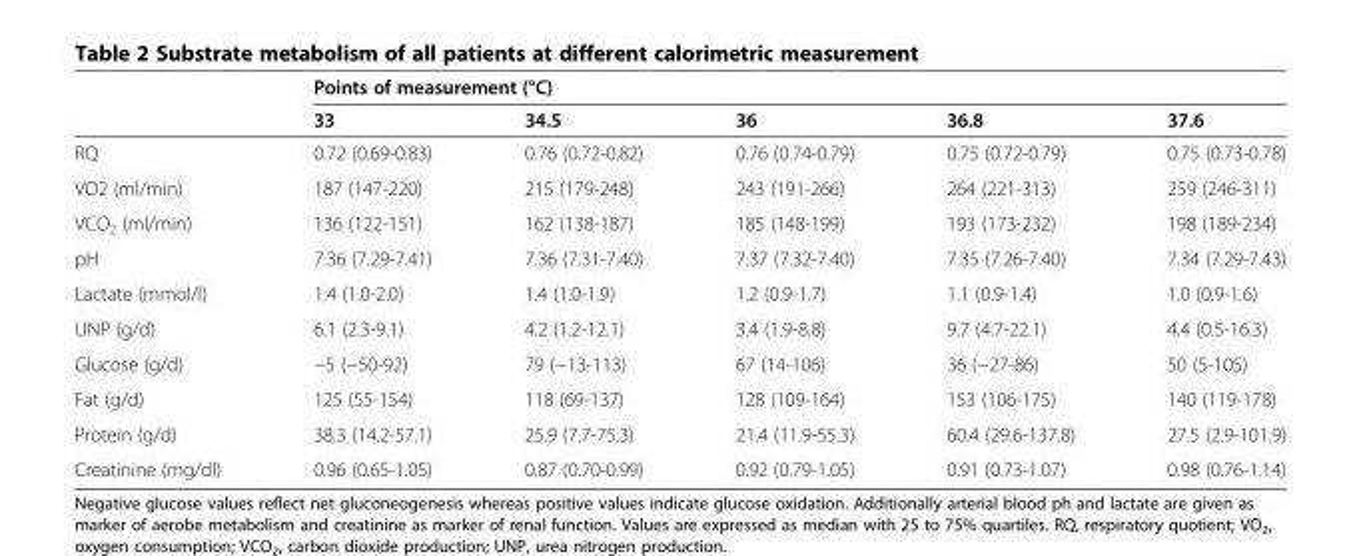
<table><thead><tr><td rowspan="2"></td><td colspan="5">Points of measurement (°C)</td></tr><tr><td>33</td><td>34.5</td><td>36</td><td>36.8</td><td>37.6</td></tr></thead><tbody><tr><td>RQ</td><td>0.72 (0.69-0.83)</td><td>0.76 (0.72-0.82)</td><td>0.76 (0.74-0.79)</td><td>0.75 (0.72-0.79)</td><td>0.75 (0.73-0.78)</td></tr><tr><td>VO2 (ml/min)</td><td>187 (147-220)</td><td>215 (179-248)</td><td>243 (191-266)</td><td>264 (221-313)</td><td>259 (246-311)</td></tr><tr><td>VCO<sub>2</sub> (ml/min)</td><td>136 (122-151)</td><td>162 (138-187)</td><td>185 (148-199)</td><td>193 (173-232)</td><td>198 (189-234)</td></tr><tr><td>pH</td><td>7.36 (7.29-7.41)</td><td>7.36 (7.31-7.40)</td><td>7.37 (7.32-7.40)</td><td>7.35 (7.26-7.40)</td><td>7.34 (7.29-7.43)</td></tr><tr><td>Lactate (mmol/l)</td><td>1.4 (1.0-2.0)</td><td>1.4 (1.0-1.9)</td><td>1.2 (0.9-1.7)</td><td>1.1 (0.9-1.4)</td><td>1.0 (0.9-1.6)</td></tr><tr><td>UNP (g/d)</td><td>6.1 (2.3-9.1)</td><td>4.2 (1.2-12.1)</td><td>3.4 (1.9-8.8)</td><td>9.7 (4.7-22.1)</td><td>4.4 (0.5-16.3)</td></tr><tr><td>Glucose (g/d)</td><td>−5 (−50-92)</td><td>79 (−13-113)</td><td>67 (14-106)</td><td>36 (−27-86)</td><td>50 (5-105)</td></tr><tr><td>Fat (g/d)</td><td>125 (55-154)</td><td>118 (69-137)</td><td>128 (109-164)</td><td>153 (106-175)</td><td>140 (119-178)</td></tr><tr><td>Protein (g/d)</td><td>38.3 (14.2-57.1)</td><td>25.9 (7.7-75.3)</td><td>21.4 (11.9-55.3)</td><td>60.4 (29.6-137.8)</td><td>27.5 (2.9-101.9)</td></tr><tr><td>Creatinine (mg/dl)</td><td>0.96 (0.65-1.05)</td><td>0.87 (0.70-0.99)</td><td>0.92 (0.79-1.05)</td><td>0.91 (0.73-1.07)</td><td>0.98 (0.76-1.14)</td></tr></tbody></table>